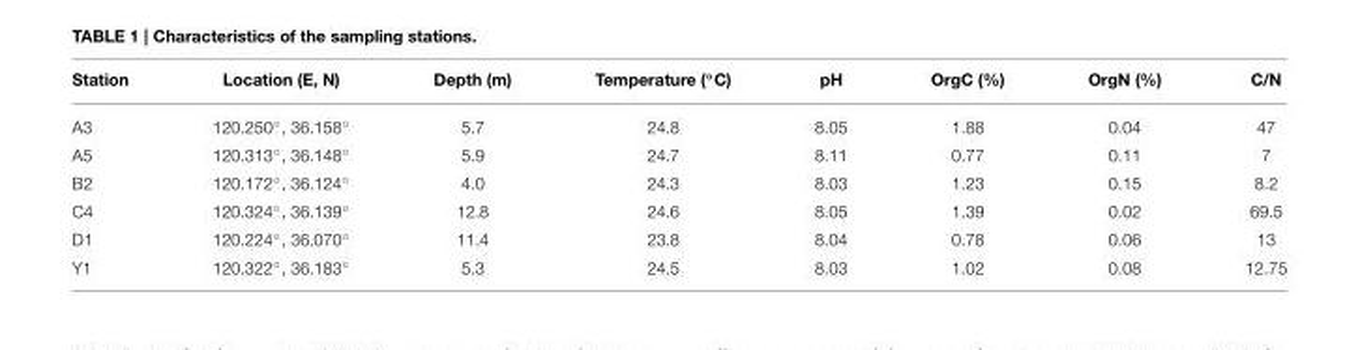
<table><thead><tr><td>Station</td><td>Location (E, N)</td><td>Depth (m)</td><td>Temperature (◦C)</td><td>pH</td><td>OrgC (%)</td><td>OrgN (%)</td><td>C/N</td></tr></thead><tbody><tr><td>A3</td><td>120.250◦, 36.158◦</td><td>5.7</td><td>24.8</td><td>8.05</td><td>1.88</td><td>0.04</td><td>47</td></tr><tr><td>A5</td><td>120.313◦, 36.148◦</td><td>5.9</td><td>24.7</td><td>8.11</td><td>0.77</td><td>0.11</td><td>7</td></tr><tr><td>B2</td><td>120.172◦, 36.124◦</td><td>4.0</td><td>24.3</td><td>8.03</td><td>1.23</td><td>0.15</td><td>8.2</td></tr><tr><td>C4</td><td>120.324◦, 36.139◦</td><td>12.8</td><td>24.6</td><td>8.05</td><td>1.39</td><td>0.02</td><td>69.5</td></tr><tr><td>D1</td><td>120.224◦, 36.070◦</td><td>11.4</td><td>23.8</td><td>8.04</td><td>0.78</td><td>0.06</td><td>13</td></tr><tr><td>Y1</td><td>120.322◦, 36.183◦</td><td>5.3</td><td>24.5</td><td>8.03</td><td>1.02</td><td>0.08</td><td>12.75</td></tr></tbody></table>